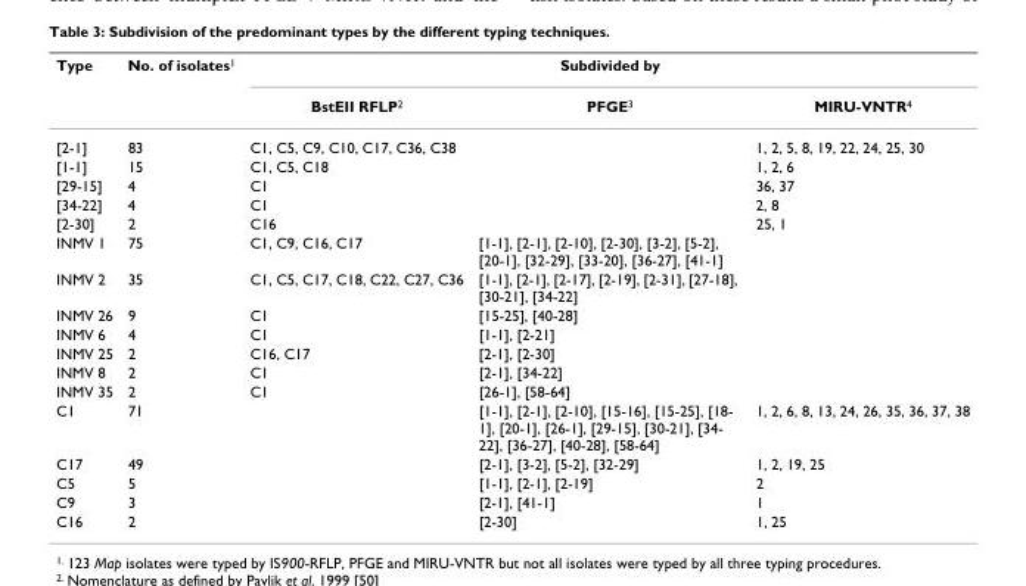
<table><thead><tr><td rowspan="2">Type</td><td rowspan="2">No. of isolates<sup>1</sup></td><td colspan="3">Subdivided by</td></tr><tr><td>BstEII RFLP<sup>2</sup></td><td>PFGE<sup>3</sup></td><td>MIRU-VNTR<sup>4</sup></td></tr></thead><tbody><tr><td>[2-1]</td><td>83</td><td>C1, C5, C9, C10, C17, C36, C38</td><td></td><td>1, 2, 5, 8, 19, 22, 24, 25, 30</td></tr><tr><td>[1-1]</td><td>15</td><td>C1, C5, C18</td><td></td><td>1, 2, 6</td></tr><tr><td>[29-15]</td><td>4</td><td>C1</td><td></td><td>36, 37</td></tr><tr><td>[34-22]</td><td>4</td><td>C1</td><td></td><td>2, 8</td></tr><tr><td>[2-30]</td><td>2</td><td>C16</td><td></td><td>25, 1</td></tr><tr><td>INMV 1</td><td>75</td><td>C1, C9, C16, C17</td><td>[1-1], [2-1], [2-10], [2-30], [3-2], [5-2], [20-1], [32-29], [33-20], [36-27], [41-1]</td><td></td></tr><tr><td>INMV 2</td><td>35</td><td>C1, C5, C17, C18, C22, C27, C36</td><td>[1-1], [2-1], [2-17], [2-19], [2-31], [27-18], [30-21], [34-22]</td><td></td></tr><tr><td>INMV 26</td><td>9</td><td>C1</td><td>[15-25], [40-28]</td><td></td></tr><tr><td>INMV 6</td><td>4</td><td>C1</td><td>[1-1], [2-21]</td><td></td></tr><tr><td>INMV 25</td><td>2</td><td>C16, C17</td><td>[2-1], [2-30]</td><td></td></tr><tr><td>INMV 8</td><td>2</td><td>C1</td><td>[2-1], [34-22]</td><td></td></tr><tr><td>INMV 35</td><td>2</td><td>C1</td><td>[26-1], [58-64]</td><td></td></tr><tr><td>C1</td><td>71</td><td></td><td>[1-1], [2-1], [2-10], [15-16], [15-25], [18- 1], [20-1], [26-1], [29-15], [30-21], [34- 22], [36-27], [40-28], [58-64]</td><td>1, 2, 6, 8, 13, 24, 26, 35, 36, 37, 38</td></tr><tr><td>C17</td><td>49</td><td></td><td>[2-1], [3-2], [5-2], [32-29]</td><td>1, 2, 19, 25</td></tr><tr><td>C5</td><td>5</td><td></td><td>[1-1], [2-1], [2-19]</td><td>2</td></tr><tr><td>C9</td><td>3</td><td></td><td>[2-1], [41-1]</td><td>1</td></tr><tr><td>C16</td><td>2</td><td></td><td>[2-30]</td><td>1, 25</td></tr></tbody></table>